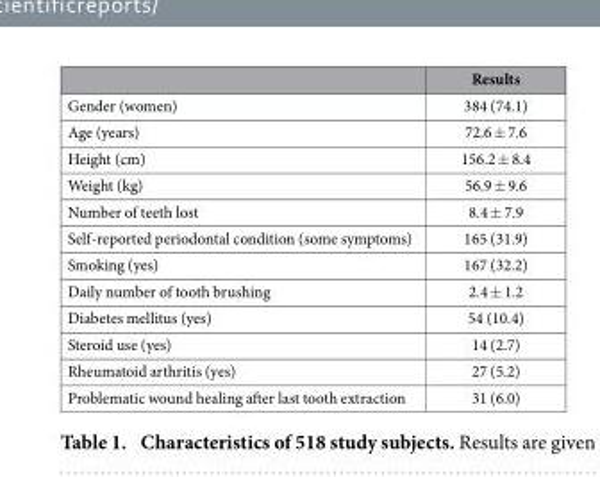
<table><thead><tr><td></td><td>Results</td></tr></thead><tbody><tr><td>Gender (women)</td><td>384 (74.1)</td></tr><tr><td>Age (years)</td><td>72.6 ± 7.6</td></tr><tr><td>Height (cm)</td><td>156.2 ± 8.4</td></tr><tr><td>Weight (kg)</td><td>56.9 ± 9.6</td></tr><tr><td>Number of teeth lost</td><td>8.4 ± 7.9</td></tr><tr><td>Self-reported periodontal condition (some symptoms)</td><td>165 (31.9)</td></tr><tr><td>Smoking (yes)</td><td>167 (32.2)</td></tr><tr><td>Daily number of tooth brushing</td><td>2.4 ± 1.2</td></tr><tr><td>Diabetes mellitus (yes)</td><td>54 (10.4)</td></tr><tr><td>Steroid use (yes)</td><td>14 (2.7)</td></tr><tr><td>Rheumatoid arthritis (yes)</td><td>27 (5.2)</td></tr><tr><td>Problematic wound healing after last tooth extraction</td><td>31 (6.0)</td></tr></tbody></table>